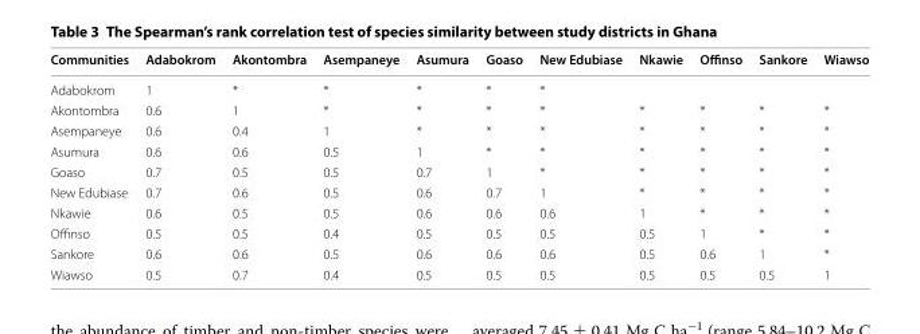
<table><thead><tr><td>Communities</td><td>Adabokrom</td><td>Akontombra</td><td>Asempaneye</td><td>Asumura</td><td>Goaso</td><td>New Edubiase</td><td>Nkawie</td><td>Offinso</td><td>Sankore</td><td>Wiawso</td></tr></thead><tbody><tr><td>Adabokrom</td><td>1</td><td>*</td><td>*</td><td>*</td><td>*</td><td>*</td><td></td><td></td><td></td><td></td></tr><tr><td>Akontombra</td><td>0.6</td><td>1</td><td>*</td><td>*</td><td>*</td><td>*</td><td>*</td><td>*</td><td>*</td><td>*</td></tr><tr><td>Asempaneye</td><td>0.6</td><td>0.4</td><td>1</td><td>*</td><td>*</td><td>*</td><td>*</td><td>*</td><td>*</td><td>*</td></tr><tr><td>Asumura</td><td>0.6</td><td>0.6</td><td>0.5</td><td>1</td><td>*</td><td>*</td><td>*</td><td>*</td><td>*</td><td>*</td></tr><tr><td>Goaso</td><td>0.7</td><td>0.5</td><td>0.5</td><td>0.7</td><td>1</td><td>*</td><td>*</td><td>*</td><td>*</td><td>*</td></tr><tr><td>New Edubiase</td><td>0.7</td><td>0.6</td><td>0.5</td><td>0.6</td><td>0.7</td><td>1</td><td>*</td><td>*</td><td>*</td><td>*</td></tr><tr><td>Nkawie</td><td>0.6</td><td>0.5</td><td>0.5</td><td>0.6</td><td>0.6</td><td>0.6</td><td>1</td><td>*</td><td>*</td><td>*</td></tr><tr><td>Offinso</td><td>0.5</td><td>0.5</td><td>0.4</td><td>0.5</td><td>0.5</td><td>0.5</td><td>0.5</td><td>1</td><td>*</td><td>*</td></tr><tr><td>Sankore</td><td>0.6</td><td>0.6</td><td>0.5</td><td>0.6</td><td>0.6</td><td>0.6</td><td>0.5</td><td>0.6</td><td>1</td><td>*</td></tr><tr><td>Wiawso</td><td>0.5</td><td>0.7</td><td>0.4</td><td>0.5</td><td>0.5</td><td>0.5</td><td>0.5</td><td>0.5</td><td>0.5</td><td>1</td></tr></tbody></table>